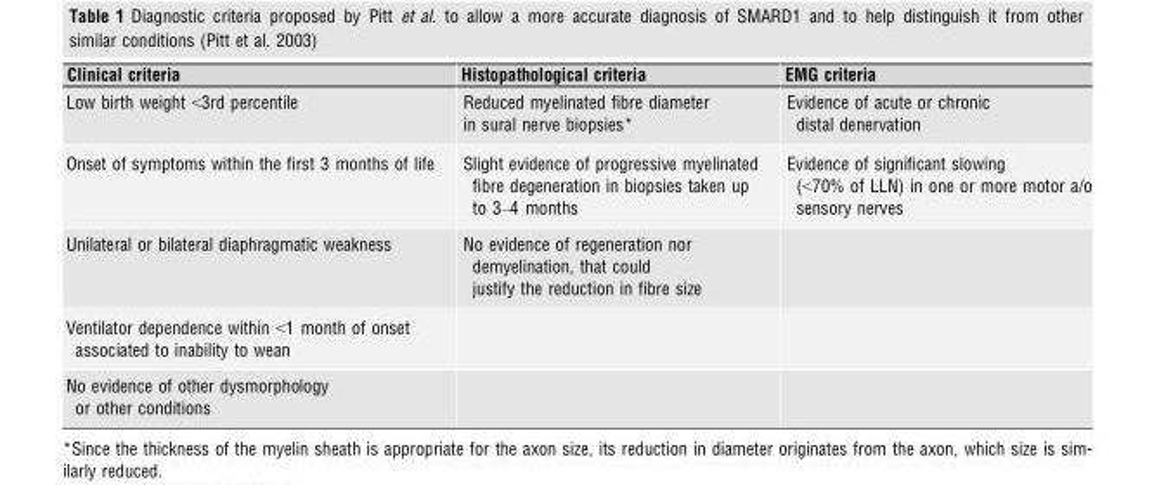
<table><thead><tr><td>Clinical criteria</td><td>Histopathological criteria</td><td>EMG criteria</td></tr></thead><tbody><tr><td>Low birth weight &lt;3rd percentile</td><td>Reduced myelinated fibre diameter in sural nerve biopsies*</td><td>Evidence of acute or chronic distal denervation</td></tr><tr><td>Onset of symptoms within the first 3 months of life</td><td>Slight evidence of progressive myelinated fibre degeneration in biopsies taken up to 3–4 months</td><td>Evidence of significant slowing (&lt;70% of LLN) in one or more motor a/o sensory nerves</td></tr><tr><td>Unilateral or bilateral diaphragmatic weakness</td><td>No evidence of regeneration nor demyelination, that could justify the reduction in fibre size</td><td></td></tr><tr><td colspan="3">Ventilator dependence within &lt;1 month of onset associated to inability to wean</td></tr><tr><td>No evidence of other dysmorphology or other conditions</td><td></td><td></td></tr></tbody></table>